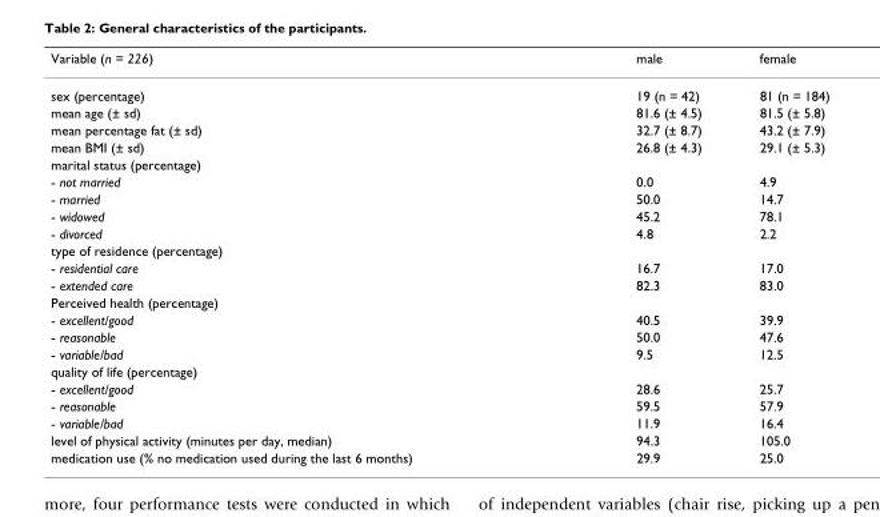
<table><thead><tr><td>Variable (n = 226)</td><td>male</td><td>female</td></tr></thead><tbody><tr><td>sex (percentage)</td><td>19 (n = 42)</td><td>81 (n = 184)</td></tr><tr><td>mean age (± sd)</td><td>81.6 (± 4.5)</td><td>81.5 (± 5.8)</td></tr><tr><td>mean percentage fat (± sd)</td><td>32.7 (± 8.7)</td><td>43.2 (± 7.9)</td></tr><tr><td>mean BMI (± sd)</td><td>26.8 (± 4.3)</td><td>29.1 (± 5.3)</td></tr><tr><td colspan="3">marital status (percentage)</td></tr><tr><td>- not married</td><td>0.0</td><td>4.9</td></tr><tr><td>- married</td><td>50.0</td><td>14.7</td></tr><tr><td>- widowed</td><td>45.2</td><td>78.1</td></tr><tr><td>- divorced</td><td>4.8</td><td>2.2</td></tr><tr><td colspan="3">type of residence (percentage)</td></tr><tr><td>- residential care</td><td>16.7</td><td>17.0</td></tr><tr><td>- extended care</td><td>82.3</td><td>83.0</td></tr><tr><td colspan="3">Perceived health (percentage)</td></tr><tr><td>- excellent/good</td><td>40.5</td><td>39.9</td></tr><tr><td>- reasonable</td><td>50.0</td><td>47.6</td></tr><tr><td>- variable/bad</td><td>9.5</td><td>12.5</td></tr><tr><td colspan="3">quality of life (percentage)</td></tr><tr><td>- excellent/good</td><td>28.6</td><td>25.7</td></tr><tr><td>- reasonable</td><td>59.5</td><td>57.9</td></tr><tr><td>- variable/bad</td><td>11.9</td><td>16.4</td></tr><tr><td>level of physical activity (minutes per day, median)</td><td>94.3</td><td>105.0</td></tr><tr><td>medication use (% no medication used during the last 6 months)</td><td>29.9</td><td>25.0</td></tr></tbody></table>